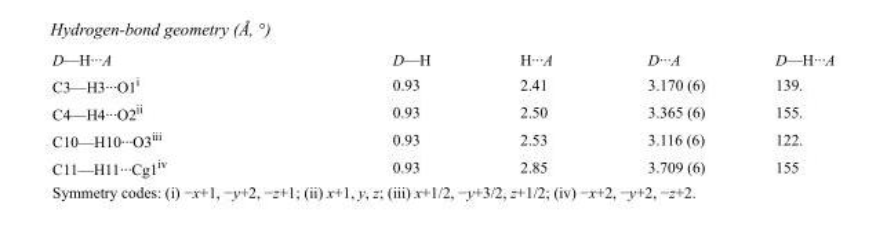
<table><tbody><tr><td>D—H···A</td><td>D—H</td><td>H···A</td><td>D···A</td><td>D—H···A</td></tr><tr><td>C3—H3···O1<sup>i</sup></td><td>0.93</td><td>2.41</td><td>3.170 (6)</td><td>139.</td></tr><tr><td>C4—H4···O2<sup>ii</sup></td><td>0.93</td><td>2.50</td><td>3.365 (6)</td><td>155.</td></tr><tr><td>C10—H10···O3<sup>iii</sup></td><td>0.93</td><td>2.53</td><td>3.116 (6)</td><td>122.</td></tr><tr><td>C11—H11···Cg1<sup>iv</sup></td><td>0.93</td><td>2.85</td><td>3.709 (6)</td><td>155</td></tr></tbody></table>